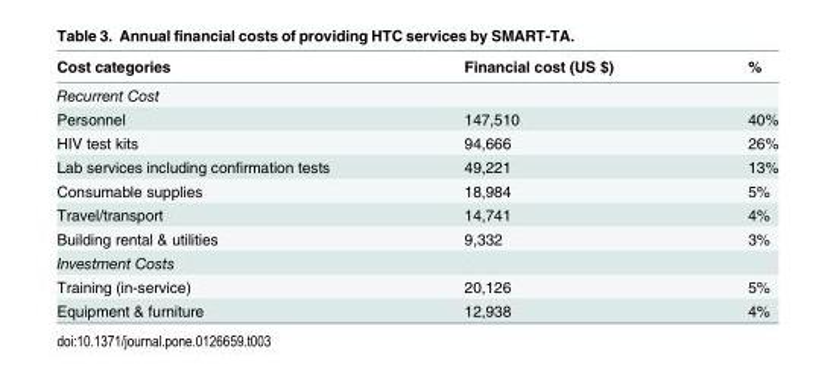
<table><thead><tr><td>Cost categories</td><td>Financial cost (US $)</td><td>%</td></tr></thead><tbody><tr><td colspan="3">Recurrent Cost</td></tr><tr><td>Personnel</td><td>147,510</td><td>40%</td></tr><tr><td>HIV test kits</td><td>94,666</td><td>26%</td></tr><tr><td>Lab services including confirmation tests</td><td>49,221</td><td>13%</td></tr><tr><td>Consumable supplies</td><td>18,984</td><td>5%</td></tr><tr><td>Travel/transport</td><td>14,741</td><td>4%</td></tr><tr><td>Building rental &amp; utilities</td><td>9,332</td><td>3%</td></tr><tr><td colspan="3">Investment Costs</td></tr><tr><td>Training (in-service)</td><td>20,126</td><td>5%</td></tr><tr><td>Equipment &amp; furniture</td><td>12,938</td><td>4%</td></tr></tbody></table>